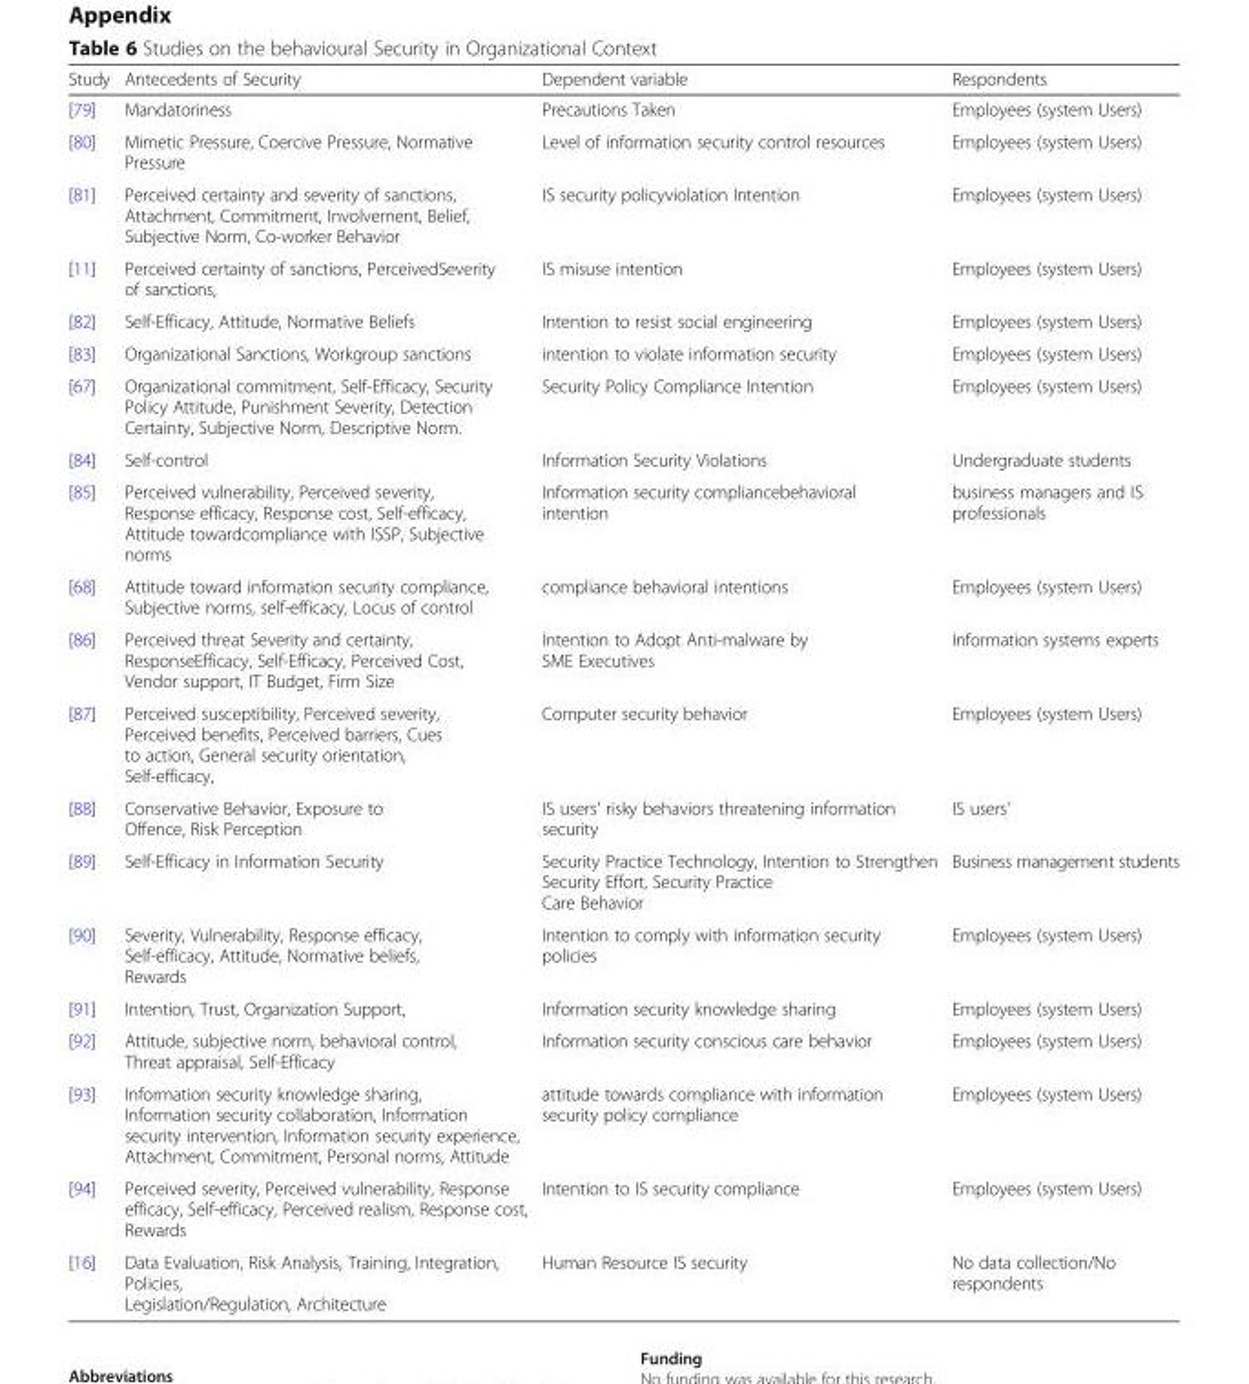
<table><thead><tr><td>Study</td><td>Antecedents of Security</td><td>Dependent variable</td><td>Respondents</td></tr></thead><tbody><tr><td>[79]</td><td>Mandatoriness</td><td>Precautions Taken</td><td>Employees (system Users)</td></tr><tr><td>[80]</td><td>Mimetic Pressure, Coercive Pressure, Normative Pressure</td><td>Level of information security control resources</td><td>Employees (system Users)</td></tr><tr><td>[81]</td><td>Perceived certainty and severity of sanctions, Attachment, Commitment, Involvement, Belief, Subjective Norm, Co-worker Behavior</td><td>IS security policyviolation Intention</td><td>Employees (system Users)</td></tr><tr><td>[11]</td><td>Perceived certainty of sanctions, PerceivedSeverity of sanctions,</td><td>IS misuse intention</td><td>Employees (system Users)</td></tr><tr><td>[82]</td><td>Self-Efficacy, Attitude, Normative Beliefs</td><td>Intention to resist social engineering</td><td>Employees (system Users)</td></tr><tr><td>[83]</td><td>Organizational Sanctions, Workgroup sanctions</td><td>intention to violate information security</td><td>Employees (system Users)</td></tr><tr><td>[67]</td><td>Organizational commitment, Self-Efficacy, Security Policy Attitude, Punishment Severity, Detection Certainty, Subjective Norm, Descriptive Norm.</td><td>Security Policy Compliance Intention</td><td>Employees (system Users)</td></tr><tr><td>[84]</td><td>Self-control</td><td>Information Security Violations</td><td>Undergraduate students</td></tr><tr><td>[85]</td><td>Perceived vulnerability, Perceived severity, Response efficacy, Response cost, Self-efficacy, Attitude towardcompliance with ISSP, Subjective norms</td><td>Information security compliancebehavioral intention</td><td>business managers and IS professionals</td></tr><tr><td>[68]</td><td>Attitude toward information security compliance, Subjective norms, self-efficacy, Locus of control</td><td>compliance behavioral intentions</td><td>Employees (system Users)</td></tr><tr><td>[86]</td><td>Perceived threat Severity and certainty, ResponseEfficacy, Self-Efficacy, Perceived Cost, Vendor support, IT Budget, Firm Size</td><td>Intention to Adopt Anti-malware by SME Executives</td><td>Information systems experts</td></tr><tr><td>[87]</td><td>Perceived susceptibility, Perceived severity, Perceived benefits, Perceived barriers, Cues to action, General security orientation, Self-efficacy,</td><td>Computer security behavior</td><td>Employees (system Users)</td></tr><tr><td>[88]</td><td>Conservative Behavior, Exposure to Offence, Risk Perception</td><td>IS users’ risky behaviors threatening information security</td><td>IS users’</td></tr><tr><td>[89]</td><td>Self-Efficacy in Information Security</td><td>Security Practice Technology, Intention to Strengthen Security Effort, Security Practice Care Behavior</td><td>Business management students</td></tr><tr><td>[90]</td><td>Severity, Vulnerability, Response efficacy, Self-efficacy, Attitude, Normative beliefs, Rewards</td><td>Intention to comply with information security policies</td><td>Employees (system Users)</td></tr><tr><td>[91]</td><td>Intention, Trust, Organization Support,</td><td>Information security knowledge sharing</td><td>Employees (system Users)</td></tr><tr><td>[92]</td><td>Attitude, subjective norm, behavioral control, Threat appraisal, Self-Efficacy</td><td>Information security conscious care behavior</td><td>Employees (system Users)</td></tr><tr><td>[93]</td><td>Information security knowledge sharing, Information security collaboration, Information security intervention, Information security experience, Attachment, Commitment, Personal norms, Attitude</td><td>attitude towards compliance with information security policy compliance</td><td>Employees (system Users)</td></tr><tr><td>[94]</td><td>Perceived severity, Perceived vulnerability, Response efficacy, Self-efficacy, Perceived realism, Response cost, Rewards</td><td>Intention to IS security compliance</td><td>Employees (system Users)</td></tr><tr><td>[16]</td><td>Data Evaluation, Risk Analysis, Training, Integration, Policies, Legislation/Regulation, Architecture</td><td>Human Resource IS security</td><td>No data collection/No respondents</td></tr></tbody></table>